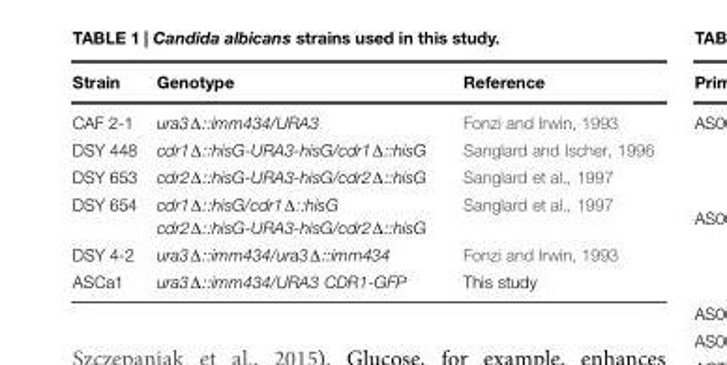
<table><thead><tr><td>Strain</td><td>Genotype</td><td>Reference</td></tr></thead><tbody><tr><td>CAF 2-1</td><td>ura3Δ::imm434/URA3</td><td>Fonzi and Irwin, 1993</td></tr><tr><td>DSY 448</td><td>cdr1Δ::hisG-URA3-hisG/cdr1Δ::hisG</td><td>Sanglard and Ischer, 1996</td></tr><tr><td>DSY 653</td><td>cdr2Δ::hisG-URA3-hisG/cdr2Δ::hisG</td><td>Sanglard et al., 1997</td></tr><tr><td>DSY 654</td><td>cdr1Δ::hisG/cdr1Δ::hisG cdr2Δ::hisG-URA3-hisG/cdr2Δ::hisG</td><td>Sanglard et al., 1997</td></tr><tr><td>DSY 4-2</td><td>ura3Δ::imm434/ura3Δ::imm434</td><td>Fonzi and Irwin, 1993</td></tr><tr><td>ASCa1</td><td>ura3Δ::imm434/URA3 CDR1-GFP</td><td>This study</td></tr></tbody></table>